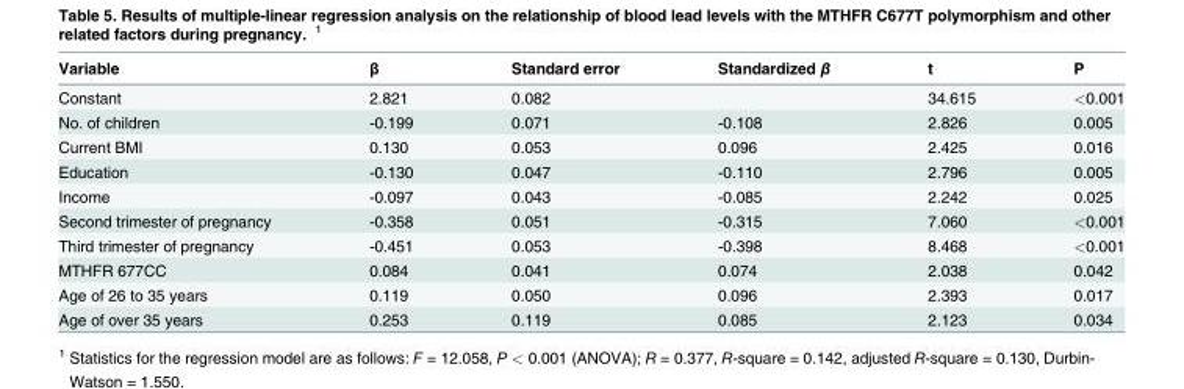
<table><thead><tr><td>Variable</td><td>β</td><td>Standard error</td><td>Standardized β</td><td>t</td><td>P</td></tr></thead><tbody><tr><td>Constant</td><td>2.821</td><td>0.082</td><td></td><td>34.615</td><td>&lt;0.001</td></tr><tr><td>No. of children</td><td>-0.199</td><td>0.071</td><td>-0.108</td><td>2.826</td><td>0.005</td></tr><tr><td>Current BMI</td><td>0.130</td><td>0.053</td><td>0.096</td><td>2.425</td><td>0.016</td></tr><tr><td>Education</td><td>-0.130</td><td>0.047</td><td>-0.110</td><td>2.796</td><td>0.005</td></tr><tr><td>Income</td><td>-0.097</td><td>0.043</td><td>-0.085</td><td>2.242</td><td>0.025</td></tr><tr><td>Second trimester of pregnancy</td><td>-0.358</td><td>0.051</td><td>-0.315</td><td>7.060</td><td>&lt;0.001</td></tr><tr><td>Third trimester of pregnancy</td><td>-0.451</td><td>0.053</td><td>-0.398</td><td>8.468</td><td>&lt;0.001</td></tr><tr><td>MTHFR 677CC</td><td>0.084</td><td>0.041</td><td>0.074</td><td>2.038</td><td>0.042</td></tr><tr><td>Age of 26 to 35 years</td><td>0.119</td><td>0.050</td><td>0.096</td><td>2.393</td><td>0.017</td></tr><tr><td>Age of over 35 years</td><td>0.253</td><td>0.119</td><td>0.085</td><td>2.123</td><td>0.034</td></tr></tbody></table>